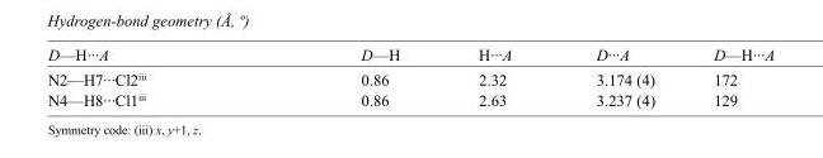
<table><tbody><tr><td>D—H···A</td><td>D—H</td><td>H···A</td><td>D···A</td><td>D—H···A</td></tr><tr><td>N2—H7···Cl2<sup>iii</sup></td><td>0.86</td><td>2.32</td><td>3.174 (4)</td><td>172</td></tr><tr><td>N4—H8···Cl1<sup>iii</sup></td><td>0.86</td><td>2.63</td><td>3.237 (4)</td><td>129</td></tr></tbody></table>